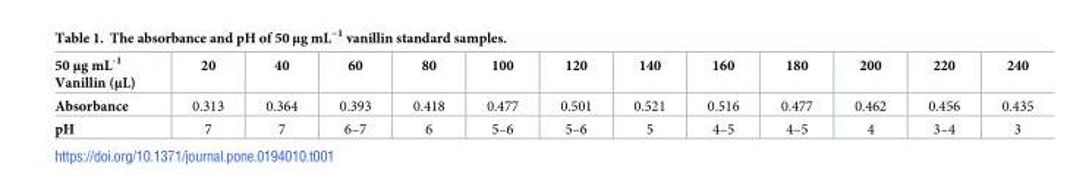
<table><thead><tr><td>50 μg mL<sup>-1</sup> Vanillin (μL)</td><td>20</td><td>40</td><td>60</td><td>80</td><td>100</td><td>120</td><td>140</td><td>160</td><td>180</td><td>200</td><td>220</td><td>240</td></tr></thead><tbody><tr><td>Absorbance</td><td>0.313</td><td>0.364</td><td>0.393</td><td>0.418</td><td>0.477</td><td>0.501</td><td>0.521</td><td>0.516</td><td>0.477</td><td>0.462</td><td>0.456</td><td>0.435</td></tr><tr><td>pH</td><td>7</td><td>7</td><td>6–7</td><td>6</td><td>5–6</td><td>5–6</td><td>5</td><td>4–5</td><td>4–5</td><td>4</td><td>3–4</td><td>3</td></tr></tbody></table>